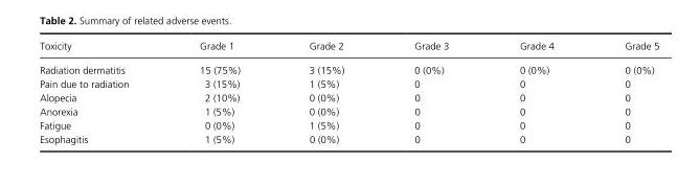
<table><thead><tr><td>Toxicity</td><td>Grade 1</td><td>Grade 2</td><td>Grade 3</td><td>Grade 4</td><td>Grade 5</td></tr></thead><tbody><tr><td>Radiation dermatitis</td><td>15 (75%)</td><td>3 (15%)</td><td>0 (0%)</td><td>0 (0%)</td><td>0 (0%)</td></tr><tr><td>Pain due to radiation</td><td>3 (15%)</td><td>1 (5%)</td><td>0</td><td>0</td><td>0</td></tr><tr><td>Alopecia</td><td>2 (10%)</td><td>0 (0%)</td><td>0</td><td>0</td><td>0</td></tr><tr><td>Anorexia</td><td>1 (5%)</td><td>0 (0%)</td><td>0</td><td>0</td><td>0</td></tr><tr><td>Fatigue</td><td>0 (0%)</td><td>1 (5%)</td><td>0</td><td>0</td><td>0</td></tr><tr><td>Esophagitis</td><td>1 (5%)</td><td>0 (0%)</td><td>0</td><td>0</td><td>0</td></tr></tbody></table>